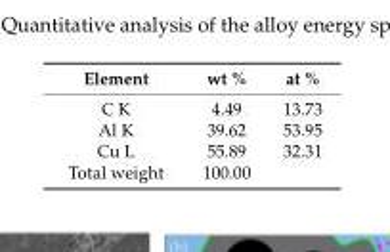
<table><thead><tr><td>Element</td><td>wt %</td><td>at %</td></tr></thead><tbody><tr><td>C K</td><td>4.49</td><td>13.73</td></tr><tr><td>Al K</td><td>39.62</td><td>53.95</td></tr><tr><td>Cu L</td><td>55.89</td><td>32.31</td></tr><tr><td>Total weight</td><td>100.00</td><td></td></tr></tbody></table>